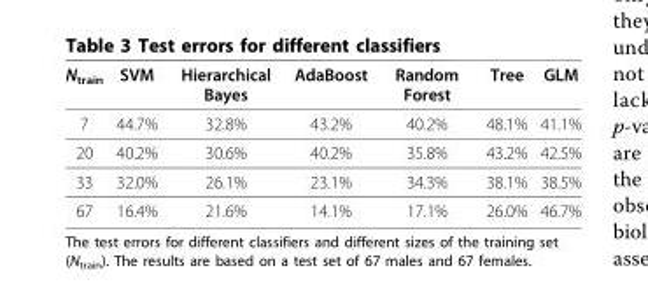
<table><thead><tr><td>N<sub>train</sub></td><td>SVM</td><td>Hierarchical Bayes</td><td>AdaBoost</td><td>Random Forest</td><td>Tree</td><td>GLM</td></tr></thead><tbody><tr><td>7</td><td>44.7%</td><td>32.8%</td><td>43.2%</td><td>40.2%</td><td>48.1%</td><td>41.1%</td></tr><tr><td>20</td><td>40.2%</td><td>30.6%</td><td>40.2%</td><td>35.8%</td><td>43.2%</td><td>42.5%</td></tr><tr><td>33</td><td>32.0%</td><td>26.1%</td><td>23.1%</td><td>34.3%</td><td>38.1%</td><td>38.5%</td></tr><tr><td>67</td><td>16.4%</td><td>21.6%</td><td>14.1%</td><td>17.1%</td><td>26.0%</td><td>46.7%</td></tr></tbody></table>